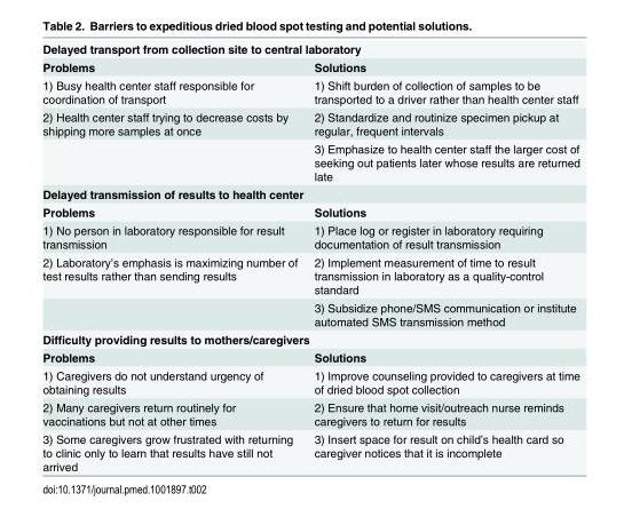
<table><tbody><tr><td colspan="2">Delayed transport from collection site to central laboratory</td></tr><tr><td>Problems</td><td>Solutions</td></tr><tr><td>1) Busy health center staff responsible for coordination of transport</td><td>1) Shift burden of collection of samples to be transported to a driver rather than health center staff</td></tr><tr><td rowspan="2">2) Health center staff trying to decrease costs by shipping more samples at once</td><td>2) Standardize and routinize specimen pickup at regular, frequent intervals</td></tr><tr><td>3) Emphasize to health center staff the larger cost of seeking out patients later whose results are returned late</td></tr><tr><td colspan="2">Delayed transmission of results to health center</td></tr><tr><td>Problems</td><td>Solutions</td></tr><tr><td>1) No person in laboratory responsible for result transmission</td><td>1) Place log or register in laboratory requiring documentation of result transmission</td></tr><tr><td rowspan="2">2) Laboratory’s emphasis is maximizing number of test results rather than sending results</td><td>2) Implement measurement of time to result transmission in laboratory as a quality-control standard</td></tr><tr><td>3) Subsidize phone/SMS communication or institute automated SMS transmission method</td></tr><tr><td colspan="2">Difficulty providing results to mothers/caregivers</td></tr><tr><td>Problems</td><td>Solutions</td></tr><tr><td>1) Caregivers do not understand urgency of obtaining results</td><td>1) Improve counseling provided to caregivers at time of dried blood spot collection</td></tr><tr><td>2) Many caregivers return routinely for vaccinations but not at other times</td><td>2) Ensure that home visit/outreach nurse reminds caregivers to return for results</td></tr><tr><td>3) Some caregivers grow frustrated with returning to clinic only to learn that results have still not arrived</td><td>3) Insert space for result on child’s health card so caregiver notices that it is incomplete</td></tr></tbody></table>